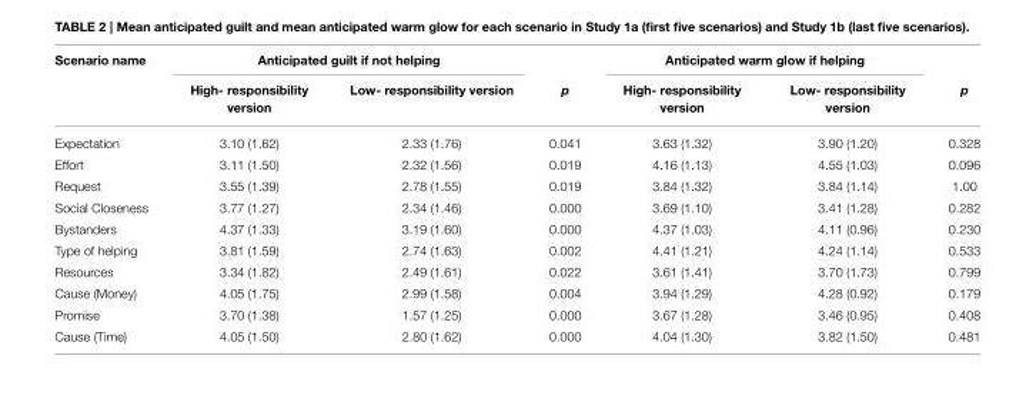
<table><thead><tr><td rowspan="2">Scenario name</td><td colspan="2">Anticipated guilt if not helping</td><td rowspan="2">p</td><td colspan="2">Anticipated warm glow if helping</td><td rowspan="2">p</td></tr><tr><td>High- responsibility version</td><td>Low- responsibility version</td><td>High- responsibility version</td><td>Low- responsibility version</td></tr></thead><tbody><tr><td>Expectation</td><td>3.10 (1.62)</td><td>2.33 (1.76)</td><td>0.041</td><td>3.63 (1.32)</td><td>3.90 (1.20)</td><td>0.328</td></tr><tr><td>Effort</td><td>3.11 (1.50)</td><td>2.32 (1.56)</td><td>0.019</td><td>4.16 (1.13)</td><td>4.55 (1.03)</td><td>0.096</td></tr><tr><td>Request</td><td>3.55 (1.39)</td><td>2.78 (1.55)</td><td>0.019</td><td>3.84 (1.32)</td><td>3.84 (1.14)</td><td>1.00</td></tr><tr><td>Social Closeness</td><td>3.77 (1.27)</td><td>2.34 (1.46)</td><td>0.000</td><td>3.69 (1.10)</td><td>3.41 (1.28)</td><td>0.282</td></tr><tr><td>Bystanders</td><td>4.37 (1.33)</td><td>3.19 (1.60)</td><td>0.000</td><td>4.37 (1.03)</td><td>4.11 (0.96)</td><td>0.230</td></tr><tr><td>Type of helping</td><td>3.81 (1.59)</td><td>2.74 (1.63)</td><td>0.002</td><td>4.41 (1.21)</td><td>4.24 (1.14)</td><td>0.533</td></tr><tr><td>Resources</td><td>3.34 (1.82)</td><td>2.49 (1.61)</td><td>0.022</td><td>3.61 (1.41)</td><td>3.70 (1.73)</td><td>0.799</td></tr><tr><td>Cause (Money)</td><td>4.05 (1.75)</td><td>2.99 (1.58)</td><td>0.004</td><td>3.94 (1.29)</td><td>4.28 (0.92)</td><td>0.179</td></tr><tr><td>Promise</td><td>3.70 (1.38)</td><td>1.57 (1.25)</td><td>0.000</td><td>3.67 (1.28)</td><td>3.46 (0.95)</td><td>0.408</td></tr><tr><td>Cause (Time)</td><td>4.05 (1.50)</td><td>2.80 (1.62)</td><td>0.000</td><td>4.04 (1.30)</td><td>3.82 (1.50)</td><td>0.481</td></tr></tbody></table>